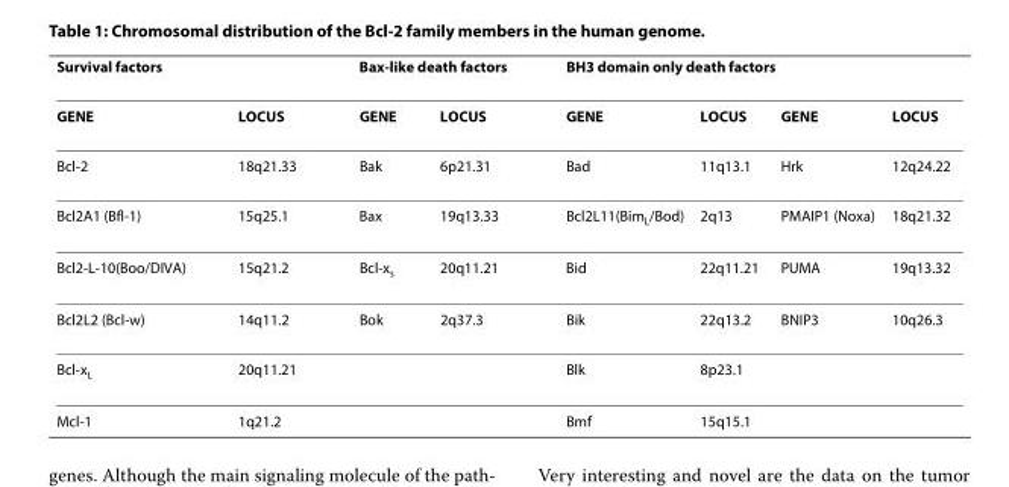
<table><thead><tr><td colspan="2">Survival factors</td><td colspan="2">Bax-like death factors</td><td colspan="4">BH3 domain only death factors</td></tr><tr><td>GENE</td><td>LOCUS</td><td>GENE</td><td>LOCUS</td><td>GENE</td><td>LOCUS</td><td>GENE</td><td>LOCUS</td></tr></thead><tbody><tr><td>Bcl-2</td><td>18q21.33</td><td>Bak</td><td>6p21.31</td><td>Bad</td><td>11q13.1</td><td>Hrk</td><td>12q24.22</td></tr><tr><td>Bcl2A1 (Bfl-1)</td><td>15q25.1</td><td>Bax</td><td>19q13.33</td><td>Bcl2L11(Bim<sub>L</sub>/Bod)</td><td>2q13</td><td>PMAIP1 (Noxa)</td><td>18q21.32</td></tr><tr><td>Bcl2-L-10(Boo/DIVA)</td><td>15q21.2</td><td>Bcl-x<sub>s</sub></td><td>20q11.21</td><td>Bid</td><td>22q11.21</td><td>PUMA</td><td>19q13.32</td></tr><tr><td>Bcl2L2 (Bcl-w)</td><td>14q11.2</td><td>Bok</td><td>2q37.3</td><td>Bik</td><td>22q13.2</td><td>BNIP3</td><td>10q26.3</td></tr><tr><td>Bcl-x<sub>L</sub></td><td>20q11.21</td><td></td><td></td><td>Blk</td><td>8p23.1</td><td></td><td></td></tr><tr><td>Mcl-1</td><td>1q21.2</td><td></td><td></td><td>Bmf</td><td>15q15.1</td><td></td><td></td></tr></tbody></table>